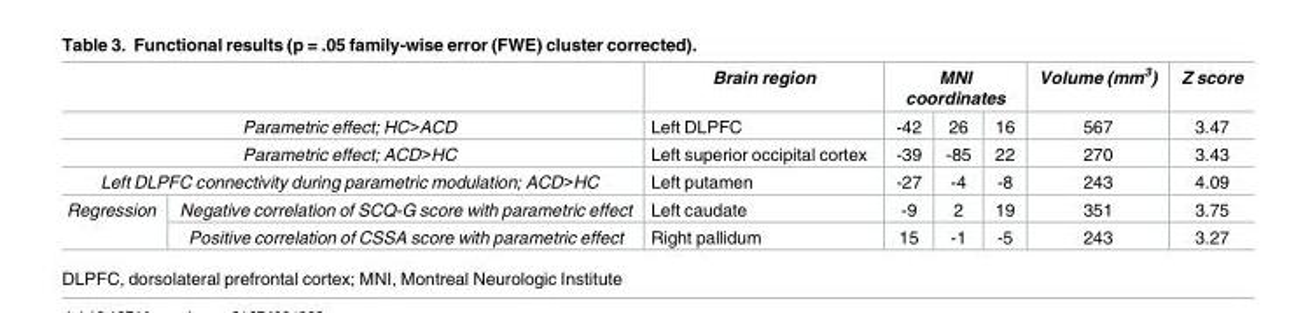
<table><thead><tr><td></td><td></td><td rowspan="2">Brain region Left DLPFC</td><td colspan="3">MNI coordinates</td><td rowspan="2">Volume (mm<sup>3</sup>) 567</td><td rowspan="2">Z score 3.47</td></tr><tr><td colspan="2">Parametric effect; HC&gt;ACD</td><td>-42</td><td>26</td><td>16</td></tr></thead><tbody><tr><td colspan="2">Parametric effect; ACD&gt;HC</td><td>Left superior occipital cortex</td><td>-39</td><td>-85</td><td>22</td><td>270</td><td>3.43</td></tr><tr><td colspan="2">Left DLPFC connectivity during parametric modulation; ACD&gt;HC</td><td>Left putamen</td><td>-27</td><td>-4</td><td>-8</td><td>243</td><td>4.09</td></tr><tr><td rowspan="2">Regression</td><td>Negative correlation of SCQ-G score with parametric effect</td><td>Left caudate</td><td>-9</td><td>2</td><td>19</td><td>351</td><td>3.75</td></tr><tr><td>Positive correlation of CSSA score with parametric effect</td><td>Right pallidum</td><td>15</td><td>-1</td><td>-5</td><td>243</td><td>3.27</td></tr></tbody></table>